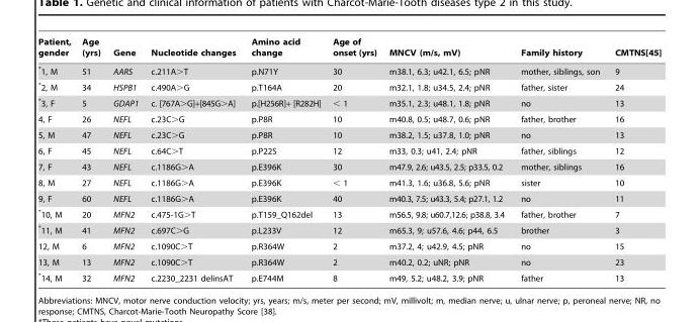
<table><thead><tr><td>Patient, gender</td><td>Age (yrs)</td><td>Gene</td><td>Nucleotide changes</td><td>Amino acid change</td><td>Age of onset (yrs)</td><td>MNCV (m/s, mV)</td><td>Family history</td><td>CMTNS[45]</td></tr></thead><tbody><tr><td>*1, M</td><td>51</td><td>AARS</td><td>c.211A&gt;T</td><td>p.N71Y</td><td>30</td><td>m38.1, 6.3; u42.1, 6.5; pNR</td><td>mother, siblings, son</td><td>9</td></tr><tr><td>*2, M</td><td>34</td><td>HSPB1</td><td>c.490A&gt;G</td><td>p.T164A</td><td>20</td><td>m32.1, 1.8; u34.5, 2.4; pNR</td><td>father, sister</td><td>24</td></tr><tr><td>*3, F</td><td>5</td><td>GDAP1</td><td>c. [767A&gt;G]+[845G&gt;A]</td><td>p.[H256R]+ [R282H]</td><td>&lt; 1</td><td>m35.1, 2.3; u48.1, 1.8; pNR</td><td>no</td><td>13</td></tr><tr><td>4, F</td><td>26</td><td>NEFL</td><td>c.23C&gt;G</td><td>p.P8R</td><td>10</td><td>m40.8, 0.5; u48.7, 0.6; pNR</td><td>father, brother</td><td>16</td></tr><tr><td>5, M</td><td>47</td><td>NEFL</td><td>c.23C&gt;G</td><td>p.P8R</td><td>10</td><td>m38.2, 1.5; u37.8, 1.0; pNR</td><td>no</td><td>13</td></tr><tr><td>6, F</td><td>45</td><td>NEFL</td><td>c.64C&gt;T</td><td>p.P22S</td><td>12</td><td>m33, 0.3; u41, 2.4; pNR</td><td>father, siblings</td><td>12</td></tr><tr><td>7, F</td><td>43</td><td>NEFL</td><td>c.1186G&gt;A</td><td>p.E396K</td><td>30</td><td>m47.9, 2.6; u43.5, 2.5; p33.5, 0.2</td><td>mother, siblings</td><td>16</td></tr><tr><td>8, M</td><td>27</td><td>NEFL</td><td>c.1186G&gt;A</td><td>p.E396K</td><td>&lt; 1</td><td>m41.3, 1.6; u36.8, 5.6; pNR</td><td>sister</td><td>10</td></tr><tr><td>9, F</td><td>60</td><td>NEFL</td><td>c.1186G&gt;A</td><td>p.E396K</td><td>40</td><td>m40.3, 7.5; u43.3, 5.4; p27.1, 1.2</td><td>no</td><td>11</td></tr><tr><td>*10, M</td><td>20</td><td>MFN2</td><td>c.475-1G&gt;T</td><td>p.T159_Q162del</td><td>13</td><td>m56.5, 9.8; u60.7,12.6; p38.8, 3.4</td><td>father, brother</td><td>7</td></tr><tr><td>*11, M</td><td>41</td><td>MFN2</td><td>c.697C&gt;G</td><td>p.L233V</td><td>12</td><td>m65.3, 9; u57.6, 4.6; p44, 6.5</td><td>brother</td><td>3</td></tr><tr><td>12, M</td><td>6</td><td>MFN2</td><td>c.1090C&gt;T</td><td>p.R364W</td><td>2</td><td>m37.2, 4; u42.9, 4.5; pNR</td><td>no</td><td>15</td></tr><tr><td>13, M</td><td>13</td><td>MFN2</td><td>c.1090C&gt;T</td><td>p.R364W</td><td>2</td><td>m40.2, 0.2; uNR; pNR</td><td>no</td><td>23</td></tr><tr><td>*14, M</td><td>32</td><td>MFN2</td><td>c.2230_2231 delinsAT</td><td>p.E744M</td><td>8</td><td>m49, 5.2; u48.2, 3.9; pNR</td><td>father</td><td>13</td></tr></tbody></table>